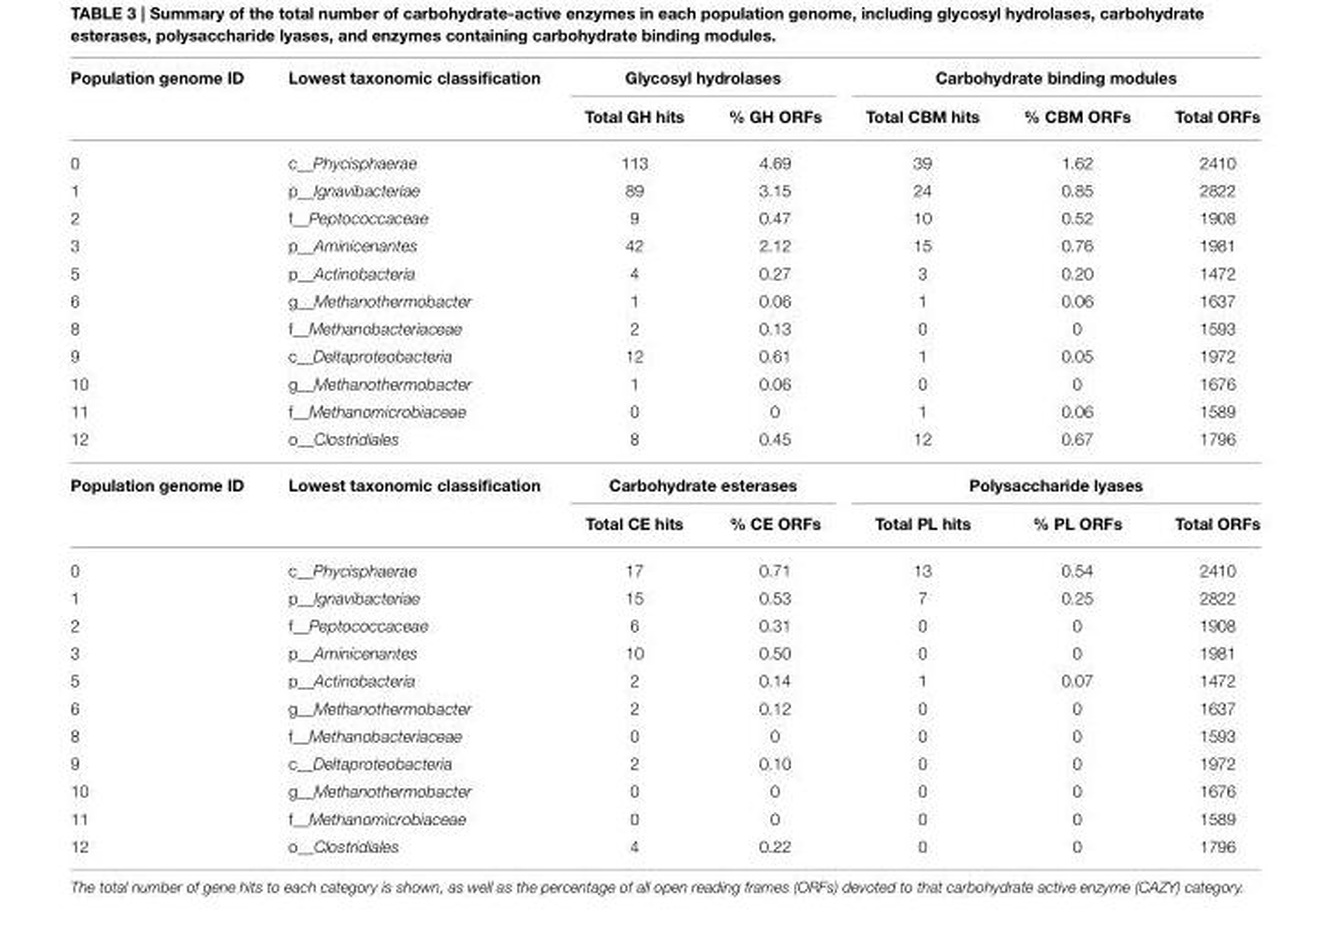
<table><thead><tr><td rowspan="2">Population genome ID</td><td rowspan="2">Lowest taxonomic classification</td><td colspan="2">Glycosyl hydrolases</td><td colspan="3">Carbohydrate binding modules</td></tr><tr><td>Total GH hits</td><td>% GH ORFs</td><td>Total CBM hits</td><td>% CBM ORFs</td><td>Total ORFs</td></tr></thead><tbody><tr><td>0</td><td>c__Phycisphaerae</td><td>113</td><td>4.69</td><td>39</td><td>1.62</td><td>2410</td></tr><tr><td>1</td><td>p__Ignavibacteriae</td><td>89</td><td>3.15</td><td>24</td><td>0.85</td><td>2822</td></tr><tr><td>2</td><td>f__Peptococcaceae</td><td>9</td><td>0.47</td><td>10</td><td>0.52</td><td>1908</td></tr><tr><td>3</td><td>p__Aminicenantes</td><td>42</td><td>2.12</td><td>15</td><td>0.76</td><td>1981</td></tr><tr><td>5</td><td>p__Actinobacteria</td><td>4</td><td>0.27</td><td>3</td><td>0.20</td><td>1472</td></tr><tr><td>6</td><td>g__Methanothermobacter</td><td>1</td><td>0.06</td><td>1</td><td>0.06</td><td>1637</td></tr><tr><td>8</td><td>f__Methanobacteriaceae</td><td>2</td><td>0.13</td><td>0</td><td>0</td><td>1593</td></tr><tr><td>9</td><td>c__Deltaproteobacteria</td><td>12</td><td>0.61</td><td>1</td><td>0.05</td><td>1972</td></tr><tr><td>10</td><td>g__Methanothermobacter</td><td>1</td><td>0.06</td><td>0</td><td>0</td><td>1676</td></tr><tr><td>11</td><td>f__Methanomicrobiaceae</td><td>0</td><td>0</td><td>1</td><td>0.06</td><td>1589</td></tr><tr><td>12</td><td>o__Clostridiales</td><td>8</td><td>0.45</td><td>12</td><td>0.67</td><td>1796</td></tr><tr><td rowspan="2">Population genome ID</td><td>Lowest taxonomic classification</td><td colspan="2">Carbohydrate esterases</td><td colspan="3">Polysaccharide lyases</td></tr><tr><td></td><td>Total CE hits</td><td>% CE ORFs</td><td>Total PL hits</td><td>% PL ORFs</td><td>Total ORFs</td></tr><tr><td>0</td><td>c__Phycisphaerae</td><td>17</td><td>0.71</td><td>13</td><td>0.54</td><td>2410</td></tr><tr><td>1</td><td>p__Ignavibacteriae</td><td>15</td><td>0.53</td><td>7</td><td>0.25</td><td>2822</td></tr><tr><td>2</td><td>f__Peptococcaceae</td><td>6</td><td>0.31</td><td>0</td><td>0</td><td>1908</td></tr><tr><td>3</td><td>p__Aminicenantes</td><td>10</td><td>0.50</td><td>0</td><td>0</td><td>1981</td></tr><tr><td>5</td><td>p__Actinobacteria</td><td>2</td><td>0.14</td><td>1</td><td>0.07</td><td>1472</td></tr><tr><td>6</td><td>g__Methanothermobacter</td><td>2</td><td>0.12</td><td>0</td><td>0</td><td>1637</td></tr><tr><td>8</td><td>f__Methanobacteriaceae</td><td>0</td><td>0</td><td>0</td><td>0</td><td>1593</td></tr><tr><td>9</td><td>c__Deltaproteobacteria</td><td>2</td><td>0.10</td><td>0</td><td>0</td><td>1972</td></tr><tr><td>10</td><td>g__Methanothermobacter</td><td>0</td><td>0</td><td>0</td><td>0</td><td>1676</td></tr><tr><td>11</td><td>f__Methanomicrobiaceae</td><td>0</td><td>0</td><td>0</td><td>0</td><td>1589</td></tr><tr><td>12</td><td>o__Clostridiales</td><td>4</td><td>0.22</td><td>0</td><td>0</td><td>1796</td></tr></tbody></table>